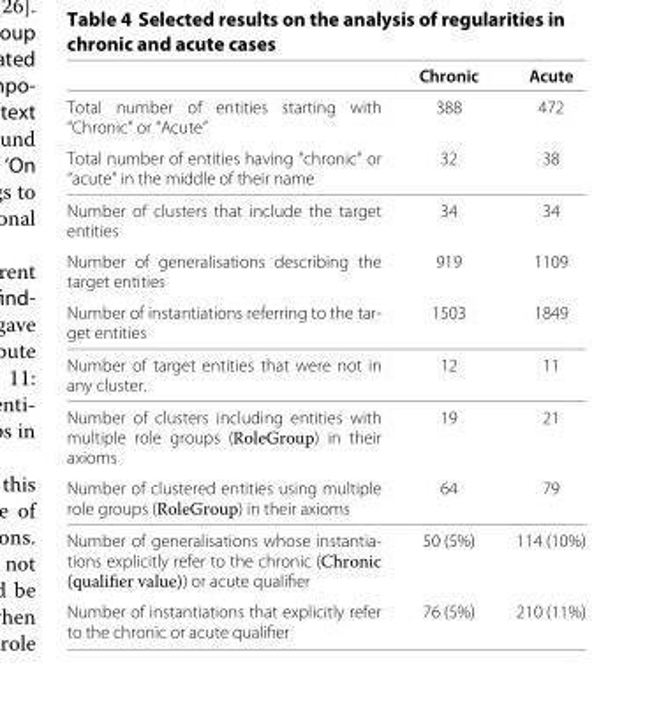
<table><thead><tr><td></td><td>Chronic</td><td>Acute</td></tr></thead><tbody><tr><td>Total number of entities starting with “Chronic” or “Acute”</td><td>388</td><td>472</td></tr><tr><td>Total number of entities having “chronic” or “acute” in the middle of their name</td><td>32</td><td>38</td></tr><tr><td>Number of clusters that include the target entities</td><td>34</td><td>34</td></tr><tr><td>Number of generalisations describing the target entities</td><td>919</td><td>1109</td></tr><tr><td>Number of instantiations referring to the tar- get entities</td><td>1503</td><td>1849</td></tr><tr><td>Number of target entities that were not in any cluster.</td><td>12</td><td>11</td></tr><tr><td>Number of clusters including entities with multiple role groups (RoleGroup) in their axioms</td><td>19</td><td>21</td></tr><tr><td>Number of clustered entities using multiple role groups (RoleGroup) in their axioms</td><td>64</td><td>79</td></tr><tr><td>Number of generalisations whose instantia- tions explicitly refer to the chronic (Chronic (qualifier value)) or acute qualifier</td><td>50 (5%)</td><td>114 (10%)</td></tr><tr><td>Number of instantiations that explicitly refer to the chronic or acute qualifier</td><td>76 (5%)</td><td>210 (11%)</td></tr></tbody></table>